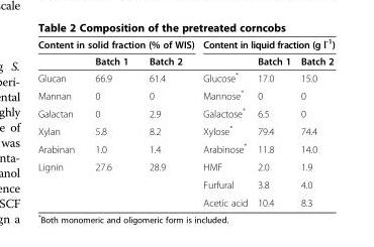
<table><thead><tr><td colspan="3">Content in solid fraction (% of WIS)</td><td colspan="3">Content in liquid fraction (g l<sup>-1</sup>)</td></tr><tr><td></td><td>Batch 1</td><td>Batch 2</td><td></td><td>Batch 1</td><td>Batch 2</td></tr></thead><tbody><tr><td>Glucan</td><td>66.9</td><td>61.4</td><td>Glucose*</td><td>17.0</td><td>15.0</td></tr><tr><td>Mannan</td><td>0</td><td>0</td><td>Mannose*</td><td>0</td><td>0</td></tr><tr><td>Galactan</td><td>0</td><td>2.9</td><td>Galactose*</td><td>6.5</td><td>0</td></tr><tr><td>Xylan</td><td>5.8</td><td>8.2</td><td>Xylose*</td><td>79.4</td><td>74.4</td></tr><tr><td>Arabinan</td><td>1.0</td><td>1.4</td><td>Arabinose*</td><td>11.8</td><td>14.0</td></tr><tr><td>Lignin</td><td>27.6</td><td>28.9</td><td>HMF</td><td>2.0</td><td>1.9</td></tr><tr><td colspan="3"></td><td>Furfural</td><td>3.8</td><td>4.0</td></tr><tr><td colspan="3"></td><td>Acetic acid</td><td>10.4</td><td>8.3</td></tr></tbody></table>